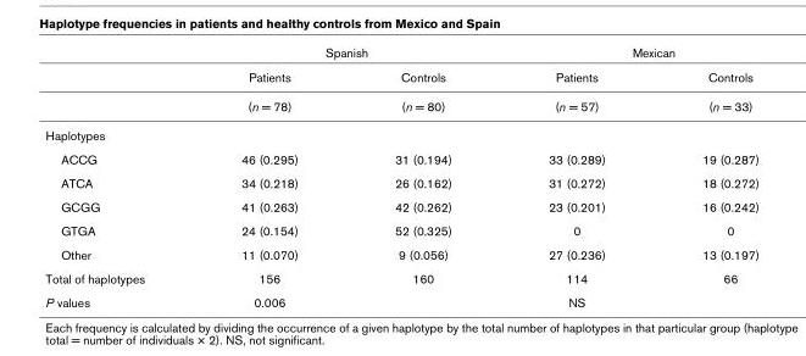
<table><thead><tr><td rowspan="2"></td><td colspan="2">Spanish</td><td colspan="2">Mexican</td></tr><tr><td>Patients</td><td>Controls</td><td>Patients</td><td>Controls</td></tr></thead><tbody><tr><td></td><td>(n = 78)</td><td>(n = 80)</td><td>(n = 57)</td><td>(n = 33)</td></tr><tr><td colspan="5">Haplotypes</td></tr><tr><td>ACCG</td><td>46 (0.295)</td><td>31 (0.194)</td><td>33 (0.289)</td><td>19 (0.287)</td></tr><tr><td>ATCA</td><td>34 (0.218)</td><td>26 (0.162)</td><td>31 (0.272)</td><td>18 (0.272)</td></tr><tr><td>GCGG</td><td>41 (0.263)</td><td>42 (0.262)</td><td>23 (0.201)</td><td>16 (0.242)</td></tr><tr><td>GTGA</td><td>24 (0.154)</td><td>52 (0.325)</td><td>0</td><td>0</td></tr><tr><td>Other</td><td>11 (0.070)</td><td>9 (0.056)</td><td>27 (0.236)</td><td>13 (0.197)</td></tr><tr><td>Total of haplotypes</td><td>156</td><td>160</td><td>114</td><td>66</td></tr><tr><td>P values</td><td>0.006</td><td></td><td>NS</td><td></td></tr></tbody></table>